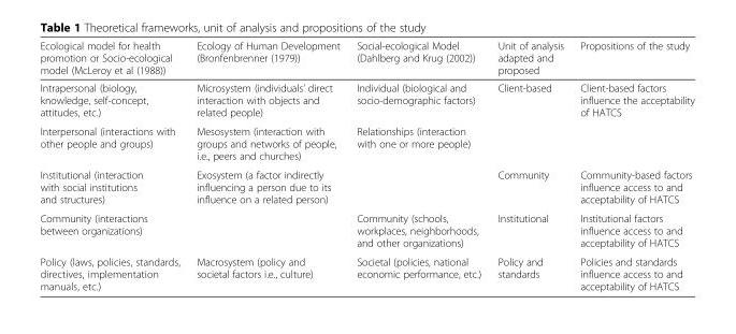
<table><thead><tr><td>Ecological model for health promotion or Socio-ecological model (McLeroy et al (1988))</td><td>Ecology of Human Development (Bronfenbrenner (1979))</td><td>Social-ecological Model (Dahlberg and Krug (2002))</td><td>Unit of analysis adapted and proposed</td><td>Propositions of the study</td></tr></thead><tbody><tr><td>Intrapersonal (biology, knowledge, self-concept, attitudes, etc.)</td><td>Microsystem (individuals’ direct interaction with objects and related people)</td><td>Individual (biological and socio-demographic factors)</td><td>Client-based</td><td>Client-based factors influence the acceptability of HATCS</td></tr><tr><td>Interpersonal (interactions with other people and groups)</td><td>Mesosystem (interaction with groups and networks of people, i.e., peers and churches)</td><td>Relationships (interaction with one or more people)</td><td></td><td></td></tr><tr><td>Institutional (interaction with social institutions and structures)</td><td>Exosystem (a factor indirectly influencing a person due to its influence on a related person)</td><td></td><td>Community</td><td>Community-based factors influence access to and acceptability of HATCS</td></tr><tr><td>Community (interactions between organizations)</td><td></td><td>Community (schools, workplaces, neighborhoods, and other organizations)</td><td>Institutional</td><td>Institutional factors influence access to and acceptability of HATCS</td></tr><tr><td>Policy (laws, policies, standards, directives, implementation manuals, etc.)</td><td>Macrosystem (policy and societal factors i.e., culture)</td><td>Societal (policies, national economic performance, etc.)</td><td>Policy and standards</td><td>Policies and standards influence access to and acceptability of HATCS</td></tr></tbody></table>